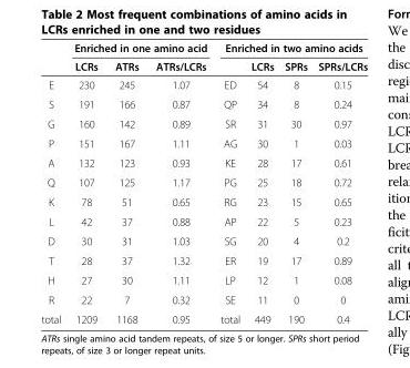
<table><thead><tr><td rowspan="2"></td><td colspan="3">Enriched in one amino acid</td><td colspan="4">Enriched in two amino acids</td></tr><tr><td>LCRs</td><td>ATRs</td><td>ATRs/LCRs</td><td></td><td>LCRs</td><td>SPRs</td><td>SPRs/LCRs</td></tr></thead><tbody><tr><td>E</td><td>230</td><td>245</td><td>1.07</td><td>ED</td><td>54</td><td>8</td><td>0.15</td></tr><tr><td>S</td><td>191</td><td>166</td><td>0.87</td><td>QP</td><td>34</td><td>8</td><td>0.24</td></tr><tr><td>G</td><td>160</td><td>142</td><td>0.89</td><td>SR</td><td>31</td><td>30</td><td>0.97</td></tr><tr><td>P</td><td>151</td><td>167</td><td>1.11</td><td>AG</td><td>30</td><td>1</td><td>0.03</td></tr><tr><td>A</td><td>132</td><td>123</td><td>0.93</td><td>KE</td><td>28</td><td>17</td><td>0.61</td></tr><tr><td>Q</td><td>107</td><td>125</td><td>1.17</td><td>PG</td><td>25</td><td>18</td><td>0.72</td></tr><tr><td>K</td><td>78</td><td>51</td><td>0.65</td><td>RG</td><td>23</td><td>15</td><td>0.65</td></tr><tr><td>L</td><td>42</td><td>37</td><td>0.88</td><td>AP</td><td>22</td><td>5</td><td>0.23</td></tr><tr><td>D</td><td>30</td><td>31</td><td>1.03</td><td>SG</td><td>20</td><td>4</td><td>0.2</td></tr><tr><td>T</td><td>28</td><td>37</td><td>1.32</td><td>ER</td><td>19</td><td>17</td><td>0.89</td></tr><tr><td>H</td><td>27</td><td>30</td><td>1.11</td><td>LP</td><td>12</td><td>1</td><td>0.08</td></tr><tr><td>R</td><td>22</td><td>7</td><td>0.32</td><td>SE</td><td>11</td><td>0</td><td>0</td></tr><tr><td>total</td><td>1209</td><td>1168</td><td>0.95</td><td>total</td><td>449</td><td>190</td><td>0.4</td></tr></tbody></table>